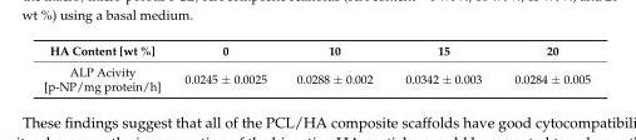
<table><thead><tr><td>HA Content [wt %]</td><td>0</td><td>10</td><td>15</td><td>20</td></tr></thead><tbody><tr><td>ALP Acivity [p-NP/mg protein/h]</td><td>0.0245 ± 0.0025</td><td>0.0288 ± 0.002</td><td>0.0342 ± 0.003</td><td>0.0284 ± 0.005</td></tr></tbody></table>